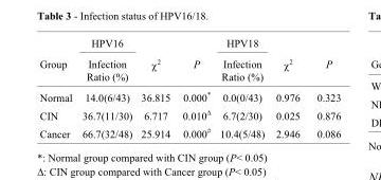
<table><thead><tr><td rowspan="2">Group</td><td rowspan="2">HPV16 Infection Ratio (%)</td><td rowspan="2">χ<sup>2</sup></td><td rowspan="2">P</td><td rowspan="2">HPV18 Infection Ratio (%)</td><td rowspan="2">χ<sup>2</sup></td><td rowspan="2">P</td></tr><tr></tr></thead><tbody><tr><td>Normal</td><td>14.0(6/43)</td><td>36.815</td><td>0.000*</td><td>0.0(0/43)</td><td>0.976</td><td>0.323</td></tr><tr><td>CIN</td><td>36.7(11/30)</td><td>6.717</td><td>0.010<sup>Δ</sup></td><td>6.7(2/30)</td><td>0.025</td><td>0.876</td></tr><tr><td>Cancer</td><td>66.7(32/48)</td><td>25.914</td><td>0.000<sup>#</sup></td><td>10.4(5/48)</td><td>2.946</td><td>0.086</td></tr></tbody></table>